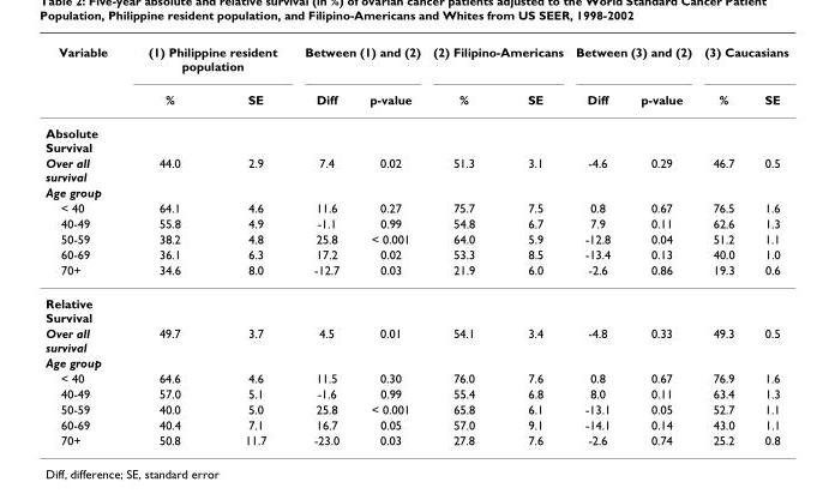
<table><tbody><tr><td rowspan="2">Variable</td><td colspan="2">(1) Philippine resident population</td><td colspan="2">Between (1) and (2)</td><td colspan="2">(2) Filipino-Americans</td><td colspan="2">Between (3) and (2)</td><td colspan="2">(3) Caucasians</td></tr><tr><td>%</td><td>SE</td><td>Diff</td><td>p-value</td><td>%</td><td>SE</td><td>Diff</td><td>p-value</td><td>%</td><td>SE</td></tr><tr><td colspan="11">Absolute Survival</td></tr><tr><td>Over all survival</td><td>44.0</td><td>2.9</td><td>7.4</td><td>0.02</td><td>51.3</td><td>3.1</td><td>-4.6</td><td>0.29</td><td>46.7</td><td>0.5</td></tr><tr><td colspan="11">Age group</td></tr><tr><td>&lt; 40</td><td>64.1</td><td>4.6</td><td>11.6</td><td>0.27</td><td>75.7</td><td>7.5</td><td>0.8</td><td>0.67</td><td>76.5</td><td>1.6</td></tr><tr><td>40-49</td><td>55.8</td><td>4.9</td><td>-1.1</td><td>0.99</td><td>54.8</td><td>6.7</td><td>7.9</td><td>0.11</td><td>62.6</td><td>1.3</td></tr><tr><td>50-59</td><td>38.2</td><td>4.8</td><td>25.8</td><td>&lt; 0.001</td><td>64.0</td><td>5.9</td><td>-12.8</td><td>0.04</td><td>51.2</td><td>1.1</td></tr><tr><td>60-69</td><td>36.1</td><td>6.3</td><td>17.2</td><td>0.02</td><td>53.3</td><td>8.5</td><td>-13.4</td><td>0.13</td><td>40.0</td><td>1.0</td></tr><tr><td>70+</td><td>34.6</td><td>8.0</td><td>-12.7</td><td>0.03</td><td>21.9</td><td>6.0</td><td>-2.6</td><td>0.86</td><td>19.3</td><td>0.6</td></tr><tr><td colspan="11">Relative Survival</td></tr><tr><td>Over all survival</td><td>49.7</td><td>3.7</td><td>4.5</td><td>0.01</td><td>54.1</td><td>3.4</td><td>-4.8</td><td>0.33</td><td>49.3</td><td>0.5</td></tr><tr><td colspan="11">Age group</td></tr><tr><td>&lt; 40</td><td>64.6</td><td>4.6</td><td>11.5</td><td>0.30</td><td>76.0</td><td>7.6</td><td>0.8</td><td>0.67</td><td>76.9</td><td>1.6</td></tr><tr><td>40-49</td><td>57.0</td><td>5.1</td><td>-1.6</td><td>0.99</td><td>55.4</td><td>6.8</td><td>8.0</td><td>0.11</td><td>63.4</td><td>1.3</td></tr><tr><td>50-59</td><td>40.0</td><td>5.0</td><td>25.8</td><td>&lt; 0.001</td><td>65.8</td><td>6.1</td><td>-13.1</td><td>0.05</td><td>52.7</td><td>1.1</td></tr><tr><td>60-69</td><td>40.4</td><td>7.1</td><td>16.7</td><td>0.05</td><td>57.0</td><td>9.1</td><td>-14.1</td><td>0.14</td><td>43.0</td><td>1.1</td></tr><tr><td>70+</td><td>50.8</td><td>11.7</td><td>-23.0</td><td>0.03</td><td>27.8</td><td>7.6</td><td>-2.6</td><td>0.74</td><td>25.2</td><td>0.8</td></tr></tbody></table>